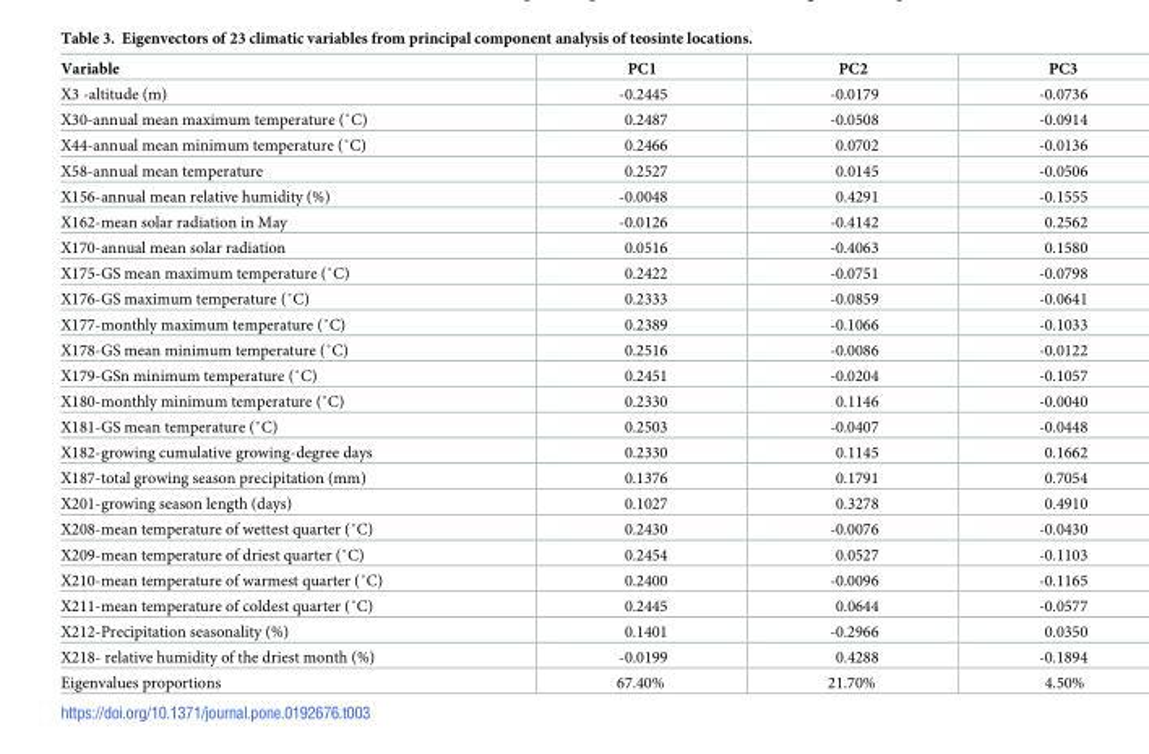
<table><thead><tr><td>Variable</td><td>PC1</td><td>PC2</td><td>PC3</td></tr></thead><tbody><tr><td>X3 -altitude (m)</td><td>-0.2445</td><td>-0.0179</td><td>-0.0736</td></tr><tr><td>X30-annual mean maximum temperature (˚C)</td><td>0.2487</td><td>-0.0508</td><td>-0.0914</td></tr><tr><td>X44-annual mean minimum temperature (˚C)</td><td>0.2466</td><td>0.0702</td><td>-0.0136</td></tr><tr><td>X58-annual mean temperature</td><td>0.2527</td><td>0.0145</td><td>-0.0506</td></tr><tr><td>X156-annual mean relative humidity (%)</td><td>-0.0048</td><td>0.4291</td><td>-0.1555</td></tr><tr><td>X162-mean solar radiation in May</td><td>-0.0126</td><td>-0.4142</td><td>0.2562</td></tr><tr><td>X170-annual mean solar radiation</td><td>0.0516</td><td>-0.4063</td><td>0.1580</td></tr><tr><td>X175-GS mean maximum temperature (˚C)</td><td>0.2422</td><td>-0.0751</td><td>-0.0798</td></tr><tr><td>X176-GS maximum temperature (˚C)</td><td>0.2333</td><td>-0.0859</td><td>-0.0641</td></tr><tr><td>X177-monthly maximum temperature (˚C)</td><td>0.2389</td><td>-0.1066</td><td>-0.1033</td></tr><tr><td>X178-GS mean minimum temperature (˚C)</td><td>0.2516</td><td>-0.0086</td><td>-0.0122</td></tr><tr><td>X179-GSn minimum temperature (˚C)</td><td>0.2451</td><td>-0.0204</td><td>-0.1057</td></tr><tr><td>X180-monthly minimum temperature (˚C)</td><td>0.2330</td><td>0.1146</td><td>-0.0040</td></tr><tr><td>X181-GS mean temperature (˚C)</td><td>0.2503</td><td>-0.0407</td><td>-0.0448</td></tr><tr><td>X182-growing cumulative growing-degree days</td><td>0.2330</td><td>0.1145</td><td>0.1662</td></tr><tr><td>X187-total growing season precipitation (mm)</td><td>0.1376</td><td>0.1791</td><td>0.7054</td></tr><tr><td>X201-growing season length (days)</td><td>0.1027</td><td>0.3278</td><td>0.4910</td></tr><tr><td>X208-mean temperature of wettest quarter (˚C)</td><td>0.2430</td><td>-0.0076</td><td>-0.0430</td></tr><tr><td>X209-mean temperature of driest quarter (˚C)</td><td>0.2454</td><td>0.0527</td><td>-0.1103</td></tr><tr><td>X210-mean temperature of warmest quarter (˚C)</td><td>0.2400</td><td>-0.0096</td><td>-0.1165</td></tr><tr><td>X211-mean temperature of coldest quarter (˚C)</td><td>0.2445</td><td>0.0644</td><td>-0.0577</td></tr><tr><td>X212-Precipitation seasonality (%)</td><td>0.1401</td><td>-0.2966</td><td>0.0350</td></tr><tr><td>X218- relative humidity of the driest month (%)</td><td>-0.0199</td><td>0.4288</td><td>-0.1894</td></tr><tr><td>Eigenvalues proportions</td><td>67.40%</td><td>21.70%</td><td>4.50%</td></tr></tbody></table>